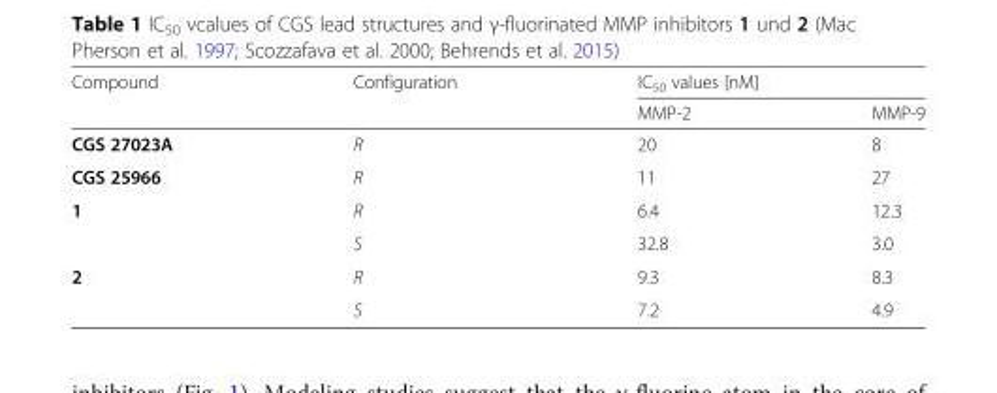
<table><thead><tr><td rowspan="2">Compound</td><td rowspan="2">Configuration</td><td colspan="2">IC<sub>50</sub> values [nM]</td></tr><tr><td>MMP-2</td><td>MMP-9</td></tr></thead><tbody><tr><td>CGS 27023A</td><td>R</td><td>20</td><td>8</td></tr><tr><td>CGS 25966</td><td>R</td><td>11</td><td>27</td></tr><tr><td rowspan="2">1</td><td>R</td><td>6.4</td><td>12.3</td></tr><tr><td>S</td><td>32.8</td><td>3.0</td></tr><tr><td rowspan="2">2</td><td>R</td><td>9.3</td><td>8.3</td></tr><tr><td>S</td><td>7.2</td><td>4.9</td></tr></tbody></table>